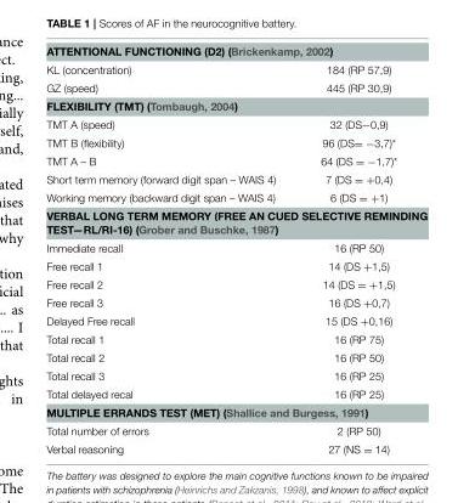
<table><thead><tr><td colspan="2">ATTENTIONAL FUNCTIONING (D2) (Brickenkamp, 2002)</td></tr><tr><td>KL (concentration)</td><td>184 (RP 57,9)</td></tr></thead><tbody><tr><td>GZ (speed)</td><td>445 (RP 30,9)</td></tr><tr><td colspan="2">FLEXIBILITY (TMT) (Tombaugh, 2004)</td></tr><tr><td>TMT A (speed)</td><td>32 (DS−0,9)</td></tr><tr><td>TMT B (flexibility)</td><td>96 (DS= −3,7)*</td></tr><tr><td>TMT A – B</td><td>64 (DS = −1,7)*</td></tr><tr><td>Short term memory (forward digit span – WAIS 4)</td><td>7 (DS = +0,4)</td></tr><tr><td>Working memory (backward digit span – WAIS 4)</td><td>6 (DS = +1)</td></tr><tr><td colspan="2">VERBAL LONG TERM MEMORY (FREE AN CUED SELECTIVE REMINDING TEST—RL/RI-16) (Grober and Buschke, 1987)</td></tr><tr><td>Immediate recall</td><td>16 (RP 50)</td></tr><tr><td>Free recall 1</td><td>14 (DS +1,5)</td></tr><tr><td>Free recall 2</td><td>14 (DS = +1,5)</td></tr><tr><td>Free recall 3</td><td>16 (DS +0,7)</td></tr><tr><td>Delayed Free recall</td><td>15 (DS +0,16)</td></tr><tr><td>Total recall 1</td><td>16 (RP 75)</td></tr><tr><td>Total recall 2</td><td>16 (RP 50)</td></tr><tr><td>Total recall 3</td><td>16 (RP 25)</td></tr><tr><td>Total delayed recal</td><td>16 (RP 25)</td></tr><tr><td colspan="2">MULTIPLE ERRANDS TEST (MET) (Shallice and Burgess, 1991)</td></tr><tr><td>Total number of errors</td><td>2 (RP 50)</td></tr><tr><td>Verbal reasoning</td><td>27 (NS = 14)</td></tr></tbody></table>